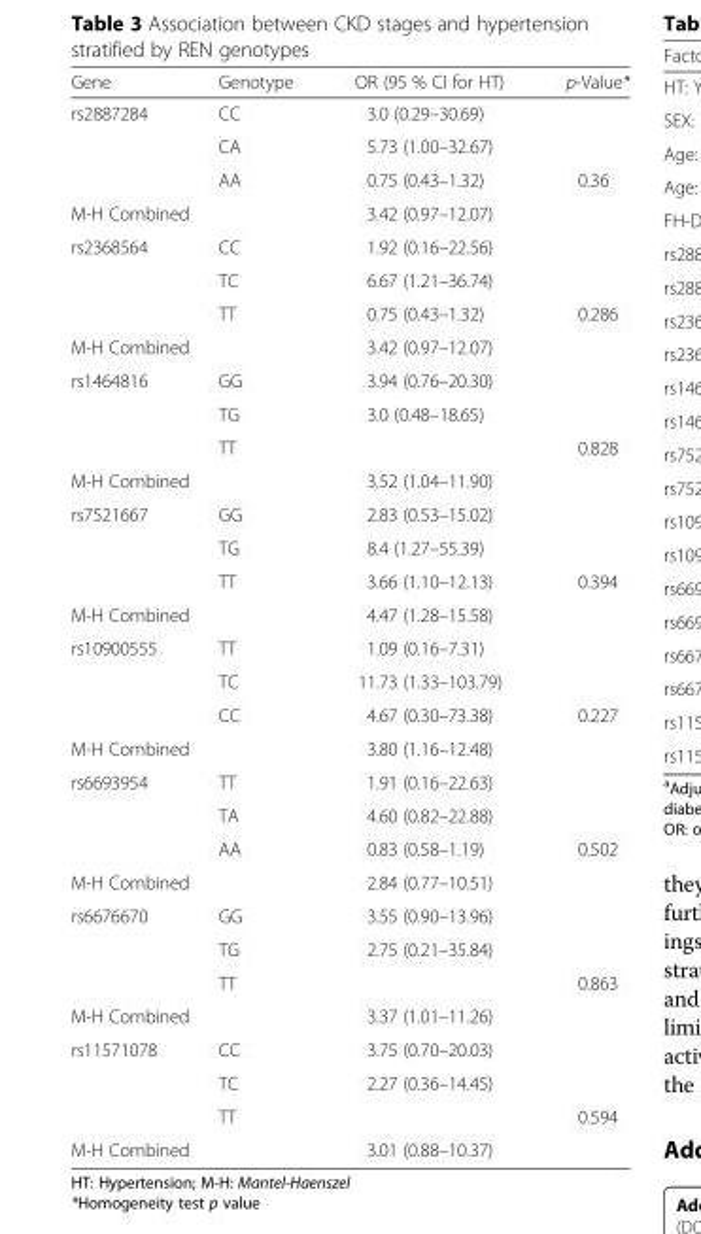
<table><thead><tr><td>Gene</td><td>Genotype</td><td>OR (95 % CI for HT)</td><td>p-Value*</td></tr></thead><tbody><tr><td rowspan="3">rs2887284</td><td>CC</td><td>3.0 (0.29–30.69)</td><td></td></tr><tr><td>CA</td><td>5.73 (1.00–32.67)</td><td></td></tr><tr><td>AA</td><td>0.75 (0.43–1.32)</td><td>0.36</td></tr><tr><td colspan="2">M-H Combined</td><td>3.42 (0.97–12.07)</td><td></td></tr><tr><td rowspan="3">rs2368564</td><td>CC</td><td>1.92 (0.16–22.56)</td><td></td></tr><tr><td>TC</td><td>6.67 (1.21–36.74)</td><td></td></tr><tr><td>TT</td><td>0.75 (0.43–1.32)</td><td>0.286</td></tr><tr><td colspan="2">M-H Combined</td><td>3.42 (0.97–12.07)</td><td></td></tr><tr><td rowspan="3">rs1464816</td><td>GG</td><td>3.94 (0.76–20.30)</td><td></td></tr><tr><td>TG</td><td>3.0 (0.48–18.65)</td><td></td></tr><tr><td>TT</td><td></td><td>0.828</td></tr><tr><td colspan="2">M-H Combined</td><td>3.52 (1.04–11.90)</td><td></td></tr><tr><td rowspan="3">rs7521667</td><td>GG</td><td>2.83 (0.53–15.02)</td><td></td></tr><tr><td>TG</td><td>8.4 (1.27–55.39)</td><td></td></tr><tr><td>TT</td><td>3.66 (1.10–12.13)</td><td>0.394</td></tr><tr><td colspan="2">M-H Combined</td><td>4.47 (1.28–15.58)</td><td></td></tr><tr><td rowspan="3">rs10900555</td><td>TT</td><td>1.09 (0.16–7.31)</td><td></td></tr><tr><td>TC</td><td>11.73 (1.33–103.79)</td><td></td></tr><tr><td>CC</td><td>4.67 (0.30–73.38)</td><td>0.227</td></tr><tr><td colspan="2">M-H Combined</td><td>3.80 (1.16–12.48)</td><td></td></tr><tr><td rowspan="3">rs6693954</td><td>TT</td><td>1.91 (0.16–22.63)</td><td></td></tr><tr><td>TA</td><td>4.60 (0.82–22.88)</td><td></td></tr><tr><td>AA</td><td>0.83 (0.58–1.19)</td><td>0.502</td></tr><tr><td colspan="2">M-H Combined</td><td>2.84 (0.77–10.51)</td><td></td></tr><tr><td rowspan="3">rs6676670</td><td>GG</td><td>3.55 (0.90–13.96)</td><td></td></tr><tr><td>TG</td><td>2.75 (0.21–35.84)</td><td></td></tr><tr><td>TT</td><td></td><td>0.863</td></tr><tr><td colspan="2">M-H Combined</td><td>3.37 (1.01–11.26)</td><td></td></tr><tr><td rowspan="3">rs11571078</td><td>CC</td><td>3.75 (0.70–20.03)</td><td></td></tr><tr><td>TC</td><td>2.27 (0.36–14.45)</td><td></td></tr><tr><td>TT</td><td></td><td>0.594</td></tr><tr><td colspan="2">M-H Combined</td><td>3.01 (0.88–10.37)</td><td></td></tr></tbody></table>